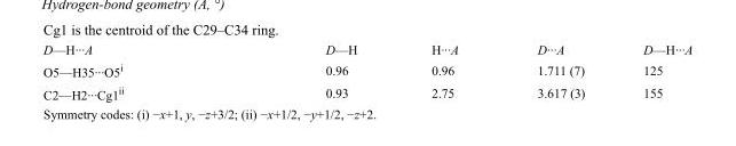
<table><tbody><tr><td>D—H···A</td><td>D—H</td><td>H···A</td><td>D···A</td><td>D—H···A</td></tr><tr><td>O5—H35···O5<sup>i</sup></td><td>0.96</td><td>0.96</td><td>1.711 (7)</td><td>125</td></tr><tr><td>C2—H2···Cg1<sup>ii</sup></td><td>0.93</td><td>2.75</td><td>3.617 (3)</td><td>155</td></tr></tbody></table>